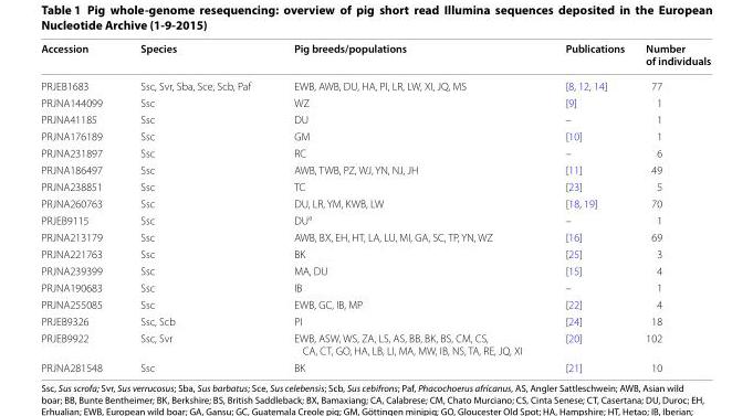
<table><thead><tr><td>Accession</td><td>Species</td><td>Pig breeds/populations</td><td>Publications</td><td>Number of individuals</td></tr></thead><tbody><tr><td>PRJEB1683</td><td>Ssc, Svr, Sba, Sce, Scb, Paf</td><td>EWB, AWB, DU, HA, PI, LR, LW, XI, JQ, MS</td><td>[8, 12, 14]</td><td>77</td></tr><tr><td>PRJNA144099</td><td>Ssc</td><td>WZ</td><td>[9]</td><td>1</td></tr><tr><td>PRJNA41185</td><td>Ssc</td><td>DU</td><td>–</td><td>1</td></tr><tr><td>PRJNA176189</td><td>Ssc</td><td>GM</td><td>[10]</td><td>1</td></tr><tr><td>PRJNA231897</td><td>Ssc</td><td>RC</td><td>–</td><td>6</td></tr><tr><td>PRJNA186497</td><td>Ssc</td><td>AWB, TWB, PZ, WJ, YN, NJ, JH</td><td>[11]</td><td>49</td></tr><tr><td>PRJNA238851</td><td>Ssc</td><td>TC</td><td>[23]</td><td>5</td></tr><tr><td>PRJNA260763</td><td>Ssc</td><td>DU, LR, YM, KWB, LW</td><td>[18, 19]</td><td>70</td></tr><tr><td>PRJEB9115</td><td>Ssc</td><td>DU<sup>a</sup></td><td>–</td><td>1</td></tr><tr><td>PRJNA213179</td><td>Ssc</td><td>AWB, BX, EH, HT, LA, LU, MI, GA, SC, TP, YN, WZ</td><td>[16]</td><td>69</td></tr><tr><td>PRJNA221763</td><td>Ssc</td><td>BK</td><td>[25]</td><td>3</td></tr><tr><td>PRJNA239399</td><td>Ssc</td><td>MA, DU</td><td>[15]</td><td>4</td></tr><tr><td>PRJNA190683</td><td>Ssc</td><td>IB</td><td>–</td><td>1</td></tr><tr><td>PRJNA255085</td><td>Ssc</td><td>EWB, GC, IB, MP</td><td>[22]</td><td>4</td></tr><tr><td>PRJEB9326</td><td>Ssc, Scb</td><td>PI</td><td>[24]</td><td>18</td></tr><tr><td>PRJEB9922</td><td>Ssc, Svr</td><td>EWB, ASW, WS, ZA, LS, AS, BB, BK, BS, CM, CS, CA, CT, GO, HA, LB, LI, MA, MW, IB, NS, TA, RE, JQ, XI</td><td>[20]</td><td>102</td></tr><tr><td>PRJNA281548</td><td>Ssc</td><td>BK</td><td>[21]</td><td>10</td></tr></tbody></table>